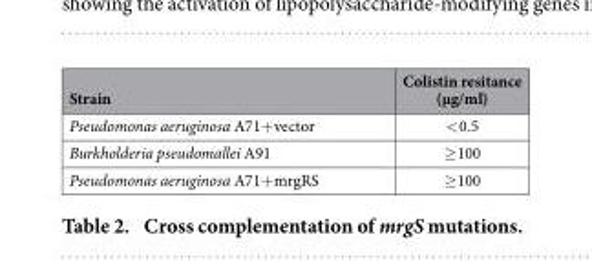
<table><thead><tr><td>Strain</td><td>Colistin resitance (μg/ml)</td></tr></thead><tbody><tr><td>Pseudomonas aeruginosa A71+ vector</td><td>&lt; 0.5</td></tr><tr><td>Burkholderia pseudomallei A91</td><td>≥ 100</td></tr><tr><td>Pseudomonas aeruginosa A71+ mrgRS</td><td>≥ 100</td></tr></tbody></table>